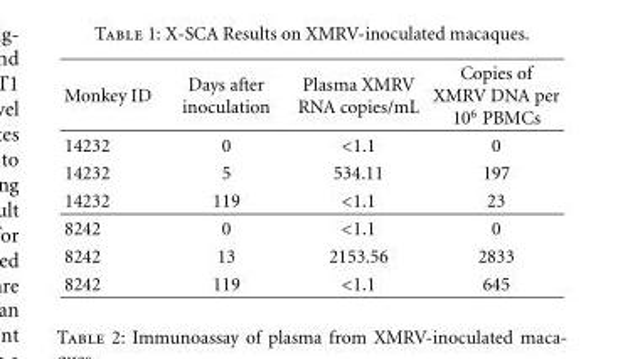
<table><thead><tr><td>Monkey ID</td><td>Days after inoculation</td><td>Plasma XMRV RNA copies/mL</td><td>Copies of XMRV DNA per 10<sup>6</sup> PBMCs</td></tr></thead><tbody><tr><td>14232</td><td>0</td><td>&lt;1.1</td><td>0</td></tr><tr><td>14232</td><td>5</td><td>534.11</td><td>197</td></tr><tr><td>14232</td><td>119</td><td>&lt;1.1</td><td>23</td></tr><tr><td>8242</td><td>0</td><td>&lt;1.1</td><td>0</td></tr><tr><td>8242</td><td>13</td><td>2153.56</td><td>2833</td></tr><tr><td>8242</td><td>119</td><td>&lt;1.1</td><td>645</td></tr></tbody></table>